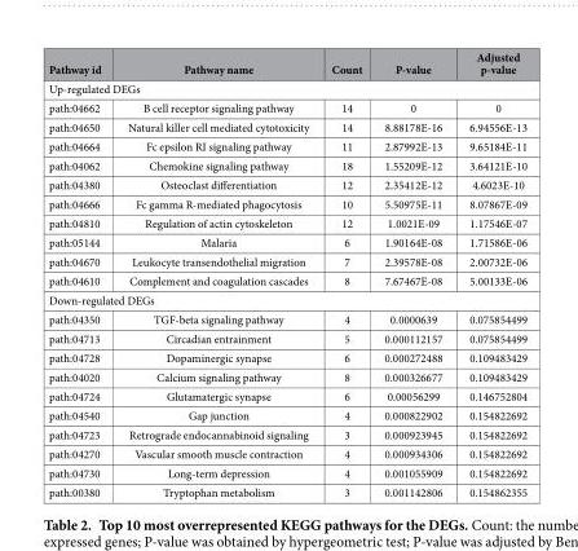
<table><thead><tr><td>Pathway id</td><td>Pathway name</td><td>Count</td><td>P-value</td><td>Adjusted p-value</td></tr></thead><tbody><tr><td colspan="5">Up-regulated DEGs</td></tr><tr><td>path:04662</td><td>B cell receptor signaling pathway</td><td>14</td><td>0</td><td>0</td></tr><tr><td>path:04650</td><td>Natural killer cell mediated cytotoxicity</td><td>14</td><td>8.88178E-16</td><td>6.94556E-13</td></tr><tr><td>path:04664</td><td>Fc epsilon RI signaling pathway</td><td>11</td><td>2.87992E-13</td><td>9.65184E-11</td></tr><tr><td>path:04062</td><td>Chemokine signaling pathway</td><td>18</td><td>1.55209E-12</td><td>3.64121E-10</td></tr><tr><td>path:04380</td><td>Osteoclast differentiation</td><td>12</td><td>2.35412E-12</td><td>4.6023E-10</td></tr><tr><td>path:04666</td><td>Fc gamma R-mediated phagocytosis</td><td>10</td><td>5.50975E-11</td><td>8.07867E-09</td></tr><tr><td>path:04810</td><td>Regulation of actin cytoskeleton</td><td>12</td><td>1.0021E-09</td><td>1.17546E-07</td></tr><tr><td>path:05144</td><td>Malaria</td><td>6</td><td>1.90164E-08</td><td>1.71586E-06</td></tr><tr><td>path:04670</td><td>Leukocyte transendothelial migration</td><td>7</td><td>2.39578E-08</td><td>2.00732E-06</td></tr><tr><td>path:04610</td><td>Complement and coagulation cascades</td><td>8</td><td>7.67467E-08</td><td>5.00133E-06</td></tr><tr><td colspan="5">Down-regulated DEGs</td></tr><tr><td>path:04350</td><td>TGF-beta signaling pathway</td><td>4</td><td>0.0000639</td><td>0.075854499</td></tr><tr><td>path:04713</td><td>Circadian entrainment</td><td>5</td><td>0.000112157</td><td>0.075854499</td></tr><tr><td>path:04728</td><td>Dopaminergic synapse</td><td>6</td><td>0.000272488</td><td>0.109483429</td></tr><tr><td>path:04020</td><td>Calcium signaling pathway</td><td>8</td><td>0.000326677</td><td>0.109483429</td></tr><tr><td>path:04724</td><td>Glutamatergic synapse</td><td>6</td><td>0.00056299</td><td>0.146752804</td></tr><tr><td>path:04540</td><td>Gap junction</td><td>4</td><td>0.000822902</td><td>0.154822692</td></tr><tr><td>path:04723</td><td>Retrograde endocannabinoid signaling</td><td>3</td><td>0.000923945</td><td>0.154822692</td></tr><tr><td>path:04270</td><td>Vascular smooth muscle contraction</td><td>4</td><td>0.000934306</td><td>0.154822692</td></tr><tr><td>path:04730</td><td>Long-term depression</td><td>4</td><td>0.001055909</td><td>0.154822692</td></tr><tr><td>path:00380</td><td>Tryptophan metabolism</td><td>3</td><td>0.001142806</td><td>0.154862355</td></tr></tbody></table>